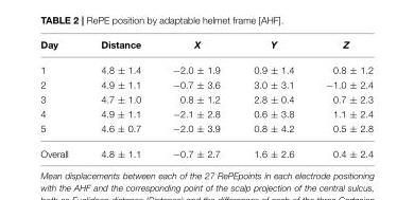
<table><thead><tr><td>Day</td><td>Distance</td><td>X</td><td>Y</td><td>Z</td></tr></thead><tbody><tr><td>1</td><td>4.8 ± 1.4</td><td>−2.0 ± 1.9</td><td>0.9 ± 1.4</td><td>0.8 ± 1.2</td></tr><tr><td>2</td><td>4.9 ± 1.1</td><td>−0.7 ± 3.6</td><td>3.0 ± 3.1</td><td>−1.0 ± 2.4</td></tr><tr><td>3</td><td>4.7 ± 1.0</td><td>0.8 ± 1.2</td><td>2.8 ± 0.4</td><td>0.7 ± 2.3</td></tr><tr><td>4</td><td>4.9 ± 1.1</td><td>−2.1 ± 2.8</td><td>0.6 ± 3.8</td><td>1.1 ± 2.4</td></tr><tr><td>5</td><td>4.6 ± 0.7</td><td>−2.0 ± 3.9</td><td>0.8 ± 4.2</td><td>0.5 ± 2.8</td></tr><tr><td>Overall</td><td>4.8 ± 1.1</td><td>−0.7 ± 2.7</td><td>1.6 ± 2.6</td><td>0.4 ± 2.4</td></tr></tbody></table>